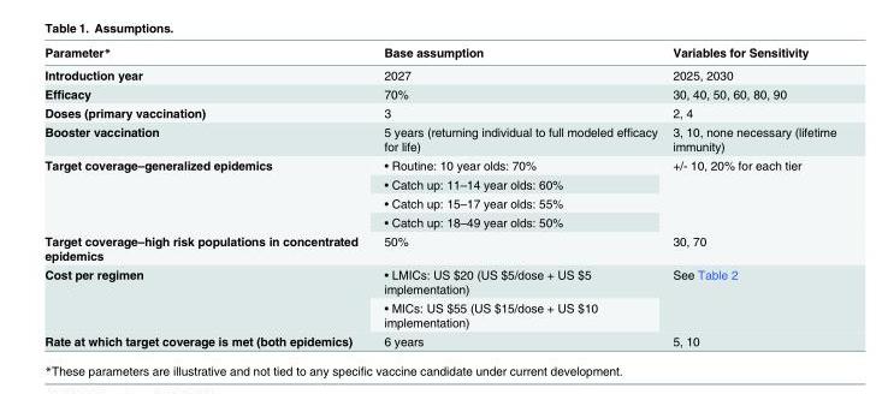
<table><thead><tr><td>Parameter*</td><td>Base assumption</td><td>Variables for Sensitivity</td></tr></thead><tbody><tr><td>Introduction year</td><td>2027</td><td>2025, 2030</td></tr><tr><td>Efficacy</td><td>70%</td><td>30, 40, 50, 60, 80, 90</td></tr><tr><td>Doses (primary vaccination)</td><td>3</td><td>2, 4</td></tr><tr><td>Booster vaccination</td><td>5 years (returning individual to full modeled efficacy for life)</td><td>3, 10, none necessary (lifetime immunity)</td></tr><tr><td rowspan="4">Target coverage–generalized epidemics</td><td>• Routine: 10 year olds: 70%</td><td rowspan="4">+/- 10, 20% for each tier</td></tr><tr><td>• Catch up: 11–14 year olds: 60%</td></tr><tr><td>• Catch up: 15–17 year olds: 55%</td></tr><tr><td>• Catch up: 18–49 year olds: 50%</td></tr><tr><td>Target coverage–high risk populations in concentrated epidemics</td><td>50%</td><td>30, 70</td></tr><tr><td rowspan="2">Cost per regimen</td><td>• LMICs: US $20 (US $5/dose + US $5 implementation)</td><td rowspan="2">See Table 2</td></tr><tr><td>• MICs: US $55 (US $15/dose + US $10 implementation)</td></tr><tr><td>Rate at which target coverage is met (both epidemics)</td><td>6 years</td><td>5, 10</td></tr></tbody></table>